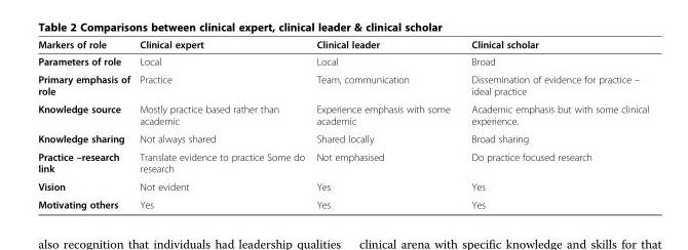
<table><thead><tr><td>Markers of role</td><td>Clinical expert</td><td>Clinical leader</td><td>Clinical scholar</td></tr></thead><tbody><tr><td>Parameters of role</td><td>Local</td><td>Local</td><td>Broad</td></tr><tr><td>Primary emphasis of role</td><td>Practice</td><td>Team, communication</td><td>Dissemination of evidence for practice – ideal practice</td></tr><tr><td>Knowledge source</td><td>Mostly practice based rather than academic</td><td>Experience emphasis with some academic</td><td>Academic emphasis but with some clinical experience.</td></tr><tr><td>Knowledge sharing</td><td>Not always shared</td><td>Shared locally</td><td>Broad sharing</td></tr><tr><td>Practice –research link</td><td>Translate evidence to practice Some do research</td><td>Not emphasised</td><td>Do practice focused research</td></tr><tr><td>Vision</td><td>Not evident</td><td>Yes</td><td>Yes</td></tr><tr><td>Motivating others</td><td>Yes</td><td>Yes</td><td>Yes</td></tr></tbody></table>